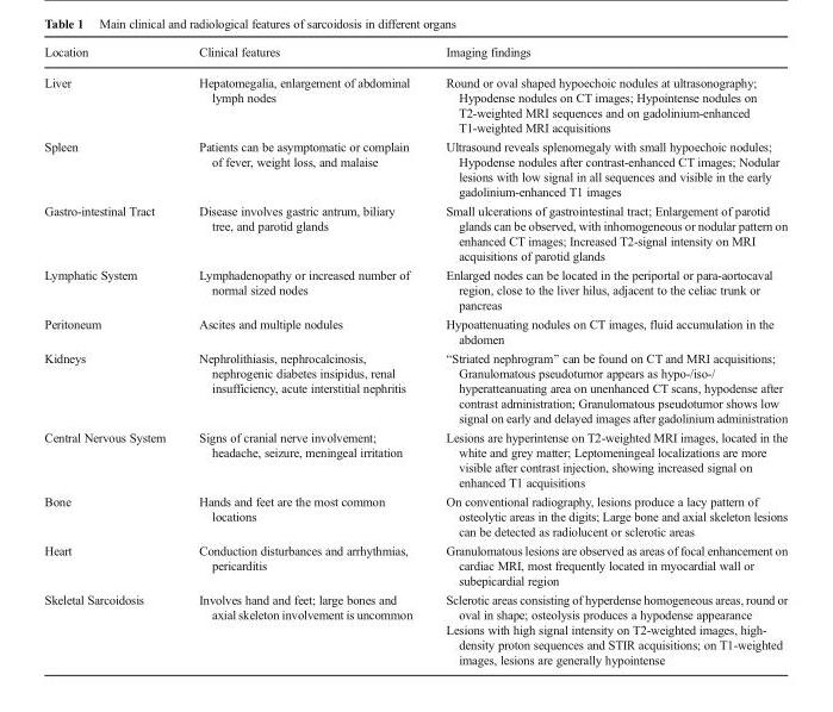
<table><thead><tr><td>Location</td><td>Clinical features</td><td>Imaging findings</td></tr></thead><tbody><tr><td>Liver</td><td>Hepatomegalia, enlargement of abdominal lymph nodes</td><td>Round or oval shaped hypoechoic nodules at ultrasonography; Hypodense nodules on CT images; Hypointense nodules on T2-weighted MRI sequences and on gadolinium-enhanced T1-weighted MRI acquisitions</td></tr><tr><td>Spleen</td><td>Patients can be asymptomatic or complain of fever, weight loss, and malaise</td><td>Ultrasound reveals splenomegaly with small hypoechoic nodules; Hypodense nodules after contrast-enhanced CT images; Nodular lesions with low signal in all sequences and visible in the early gadolinium-enhanced T1 images</td></tr><tr><td>Gastro-intestinal Tract</td><td>Disease involves gastric antrum, biliary tree, and parotid glands</td><td>Small ulcerations of gastrointestinal tract; Enlargement of parotid glands can be observed, with inhomogeneous or nodular pattern on enhanced CT images; Increased T2-signal intensity on MRI acquisitions of parotid glands</td></tr><tr><td>Lymphatic System</td><td>Lymphadenopathy or increased number of normal sized nodes</td><td>Enlarged nodes can be located in the periportal or para-aortocaval region, close to the liver hilus, adjacent to the celiac trunk or pancreas</td></tr><tr><td>Peritoneum</td><td>Ascites and multiple nodules</td><td>Hypoattenuating nodules on CT images, fluid accumulation in the abdomen</td></tr><tr><td>Kidneys</td><td>Nephrolithiasis, nephrocalcinosis, nephrogenic diabetes insipidus, renal insufficiency, acute interstitial nephritis</td><td>“Striated nephrogram” can be found on CT and MRI acquisitions; Granulomatous pseudotumor appears as hypo-/iso-/ hyperatteanuating area on unenhanced CT scans, hypodense after contrast administration; Granulomatous pseudotumor shows low signal on early and delayed images after gadolinium administration</td></tr><tr><td>Central Nervous System</td><td>Signs of cranial nerve involvement; headache, seizure, meningeal irritation</td><td>Lesions are hyperintense on T2-weighted MRI images, located in the white and grey matter; Leptomeningeal localizations are more visible after contrast injection, showing increased signal on enhanced T1 acquisitions</td></tr><tr><td>Bone</td><td>Hands and feet are the most common locations</td><td>On conventional radiography, lesions produce a lacy pattern of osteolytic areas in the digits; Large bone and axial skeleton lesions can be detected as radiolucent or sclerotic areas</td></tr><tr><td>Heart</td><td>Conduction disturbances and arrhythmias, pericarditis</td><td>Granulomatous lesions are observed as areas of focal enhancement on cardiac MRI, most frequently located in myocardial wall or subepicardial region</td></tr><tr><td>Skeletal Sarcoidosis</td><td>Involves hand and feet; large bones and axial skeleton involvement is uncommon</td><td>Sclerotic areas consisting of hyperdense homogeneous areas, round or oval in shape; osteolysis produces a hypodense appearance Lesions with high signal intensity on T2-weighted images, high- density proton sequences and STIR acquisitions; on T1-weighted images, lesions are generally hypointense</td></tr></tbody></table>